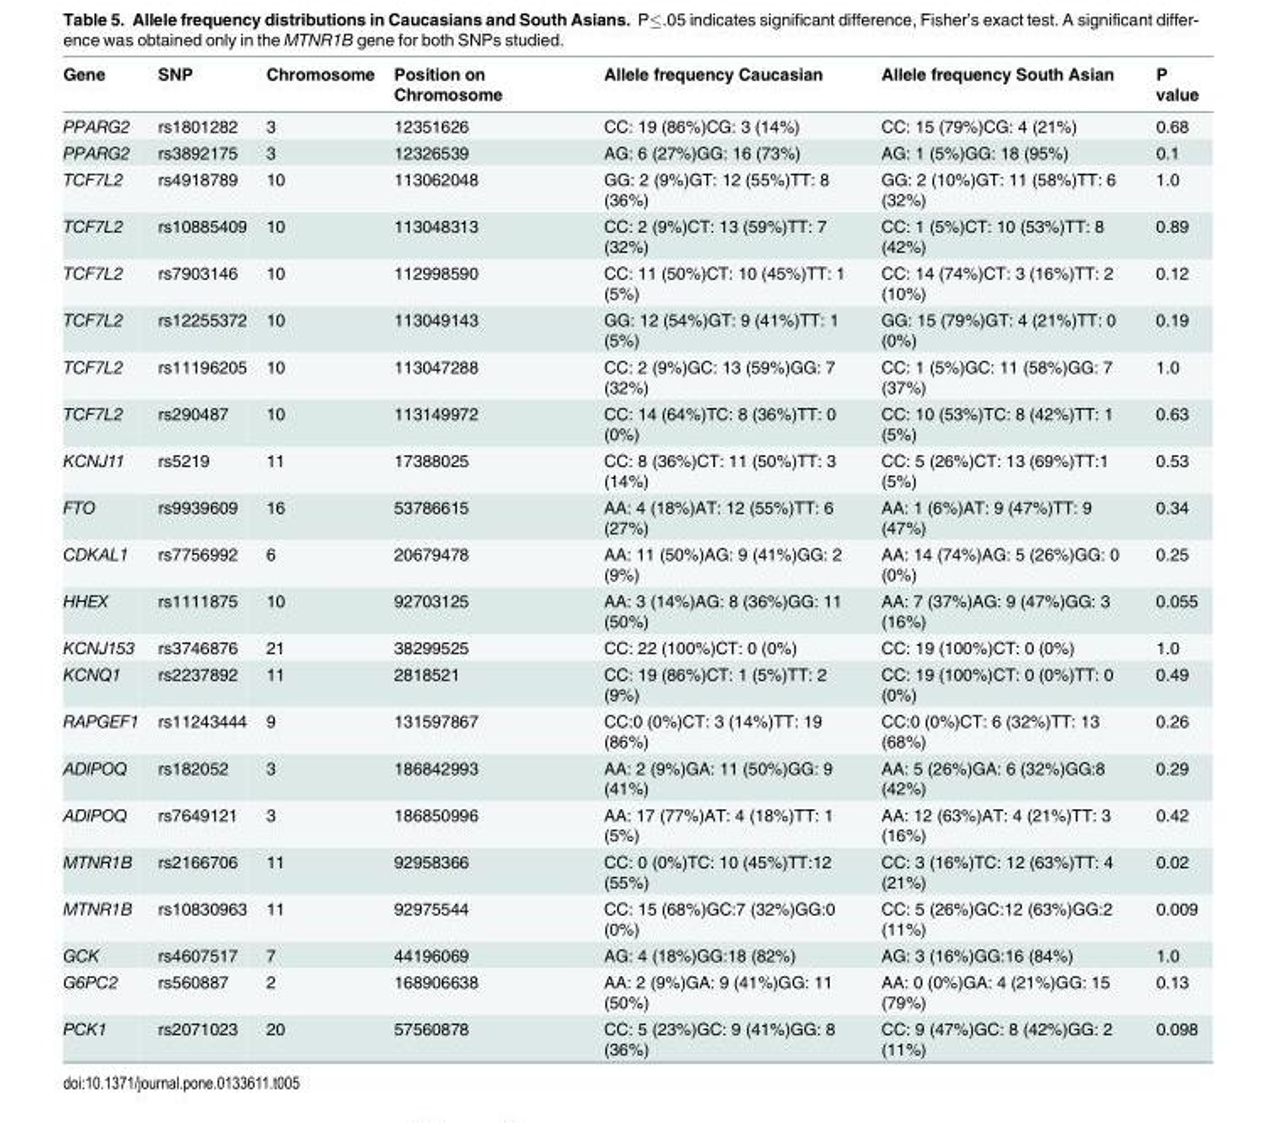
<table><thead><tr><td>Gene</td><td>SNP</td><td>Chromosome</td><td>Position on Chromosome</td><td>Allele frequency Caucasian</td><td>Allele frequency South Asian</td><td>P value</td></tr></thead><tbody><tr><td>PPARG2</td><td>rs1801282</td><td>3</td><td>12351626</td><td>CC: 19 (86%)CG: 3 (14%)</td><td>CC: 15 (79%)CG: 4 (21%)</td><td>0.68</td></tr><tr><td>PPARG2</td><td>rs3892175</td><td>3</td><td>12326539</td><td>AG: 6 (27%)GG: 16 (73%)</td><td>AG: 1 (5%)GG: 18 (95%)</td><td>0.1</td></tr><tr><td>TCF7L2</td><td>rs4918789</td><td>10</td><td>113062048</td><td>GG: 2 (9%)GT: 12 (55%)TT: 8 (36%)</td><td>GG: 2 (10%)GT: 11 (58%)TT: 6 (32%)</td><td>1.0</td></tr><tr><td>TCF7L2</td><td>rs10885409</td><td>10</td><td>113048313</td><td>CC: 2 (9%)CT: 13 (59%)TT: 7 (32%)</td><td>CC: 1 (5%)CT: 10 (53%)TT: 8 (42%)</td><td>0.89</td></tr><tr><td>TCF7L2</td><td>rs7903146</td><td>10</td><td>112998590</td><td>CC: 11 (50%)CT: 10 (45%)TT: 1 (5%)</td><td>CC: 14 (74%)CT: 3 (16%)TT: 2 (10%)</td><td>0.12</td></tr><tr><td>TCF7L2</td><td>rs12255372</td><td>10</td><td>113049143</td><td>GG: 12 (54%)GT: 9 (41%)TT: 1 (5%)</td><td>GG: 15 (79%)GT: 4 (21%)TT: 0 (0%)</td><td>0.19</td></tr><tr><td>TCF7L2</td><td>rs11196205</td><td>10</td><td>113047288</td><td>CC: 2 (9%)GC: 13 (59%)GG: 7 (32%)</td><td>CC: 1 (5%)GC: 11 (58%)GG: 7 (37%)</td><td>1.0</td></tr><tr><td>TCF7L2</td><td>rs290487</td><td>10</td><td>113149972</td><td>CC: 14 (64%)TC: 8 (36%)TT: 0 (0%)</td><td>CC: 10 (53%)TC: 8 (42%)TT: 1 (5%)</td><td>0.63</td></tr><tr><td>KCNJ11</td><td>rs5219</td><td>11</td><td>17388025</td><td>CC: 8 (36%)CT: 11 (50%)TT: 3 (14%)</td><td>CC: 5 (26%)CT: 13 (69%)TT:1 (5%)</td><td>0.53</td></tr><tr><td>FTO</td><td>rs9939609</td><td>16</td><td>53786615</td><td>AA: 4 (18%)AT: 12 (55%)TT: 6 (27%)</td><td>AA: 1 (6%)AT: 9 (47%)TT: 9 (47%)</td><td>0.34</td></tr><tr><td>CDKAL1</td><td>rs7756992</td><td>6</td><td>20679478</td><td>AA: 11 (50%)AG: 9 (41%)GG: 2 (9%)</td><td>AA: 14 (74%)AG: 5 (26%)GG: 0 (0%)</td><td>0.25</td></tr><tr><td>HHEX</td><td>rs1111875</td><td>10</td><td>92703125</td><td>AA: 3 (14%)AG: 8 (36%)GG: 11 (50%)</td><td>AA: 7 (37%)AG: 9 (47%)GG: 3 (16%)</td><td>0.055</td></tr><tr><td>KCNJ153</td><td>rs3746876</td><td>21</td><td>38299525</td><td>CC: 22 (100%)CT: 0 (0%)</td><td>CC: 19 (100%)CT: 0 (0%)</td><td>1.0</td></tr><tr><td>KCNQ1</td><td>rs2237892</td><td>11</td><td>2818521</td><td>CC: 19 (86%)CT: 1 (5%)TT: 2 (9%)</td><td>CC: 19 (100%)CT: 0 (0%)TT: 0 (0%)</td><td>0.49</td></tr><tr><td>RAPGEF1</td><td>rs11243444</td><td>9</td><td>131597867</td><td>CC:0 (0%)CT: 3 (14%)TT: 19 (86%)</td><td>CC:0 (0%)CT: 6 (32%)TT: 13 (68%)</td><td>0.26</td></tr><tr><td>ADIPOQ</td><td>rs182052</td><td>3</td><td>186842993</td><td>AA: 2 (9%)GA: 11 (50%)GG: 9 (41%)</td><td>AA: 5 (26%)GA: 6 (32%)GG:8 (42%)</td><td>0.29</td></tr><tr><td>ADIPOQ</td><td>rs7649121</td><td>3</td><td>186850996</td><td>AA: 17 (77%)AT: 4 (18%)TT: 1 (5%)</td><td>AA: 12 (63%)AT: 4 (21%)TT: 3 (16%)</td><td>0.42</td></tr><tr><td>MTNR1B</td><td>rs2166706</td><td>11</td><td>92958366</td><td>CC: 0 (0%)TC: 10 (45%)TT:12 (55%)</td><td>CC: 3 (16%)TC: 12 (63%)TT: 4 (21%)</td><td>0.02</td></tr><tr><td>MTNR1B</td><td>rs10830963</td><td>11</td><td>92975544</td><td>CC: 15 (68%)GC:7 (32%)GG:0 (0%)</td><td>CC: 5 (26%)GC:12 (63%)GG:2 (11%)</td><td>0.009</td></tr><tr><td>GCK</td><td>rs4607517</td><td>7</td><td>44196069</td><td>AG: 4 (18%)GG:18 (82%)</td><td>AG: 3 (16%)GG:16 (84%)</td><td>1.0</td></tr><tr><td>G6PC2</td><td>rs560887</td><td>2</td><td>168906638</td><td>AA: 2 (9%)GA: 9 (41%)GG: 11 (50%)</td><td>AA: 0 (0%)GA: 4 (21%)GG: 15 (79%)</td><td>0.13</td></tr><tr><td>PCK1</td><td>rs2071023</td><td>20</td><td>57560878</td><td>CC: 5 (23%)GC: 9 (41%)GG: 8 (36%)</td><td>CC: 9 (47%)GC: 8 (42%)GG: 2 (11%)</td><td>0.098</td></tr></tbody></table>